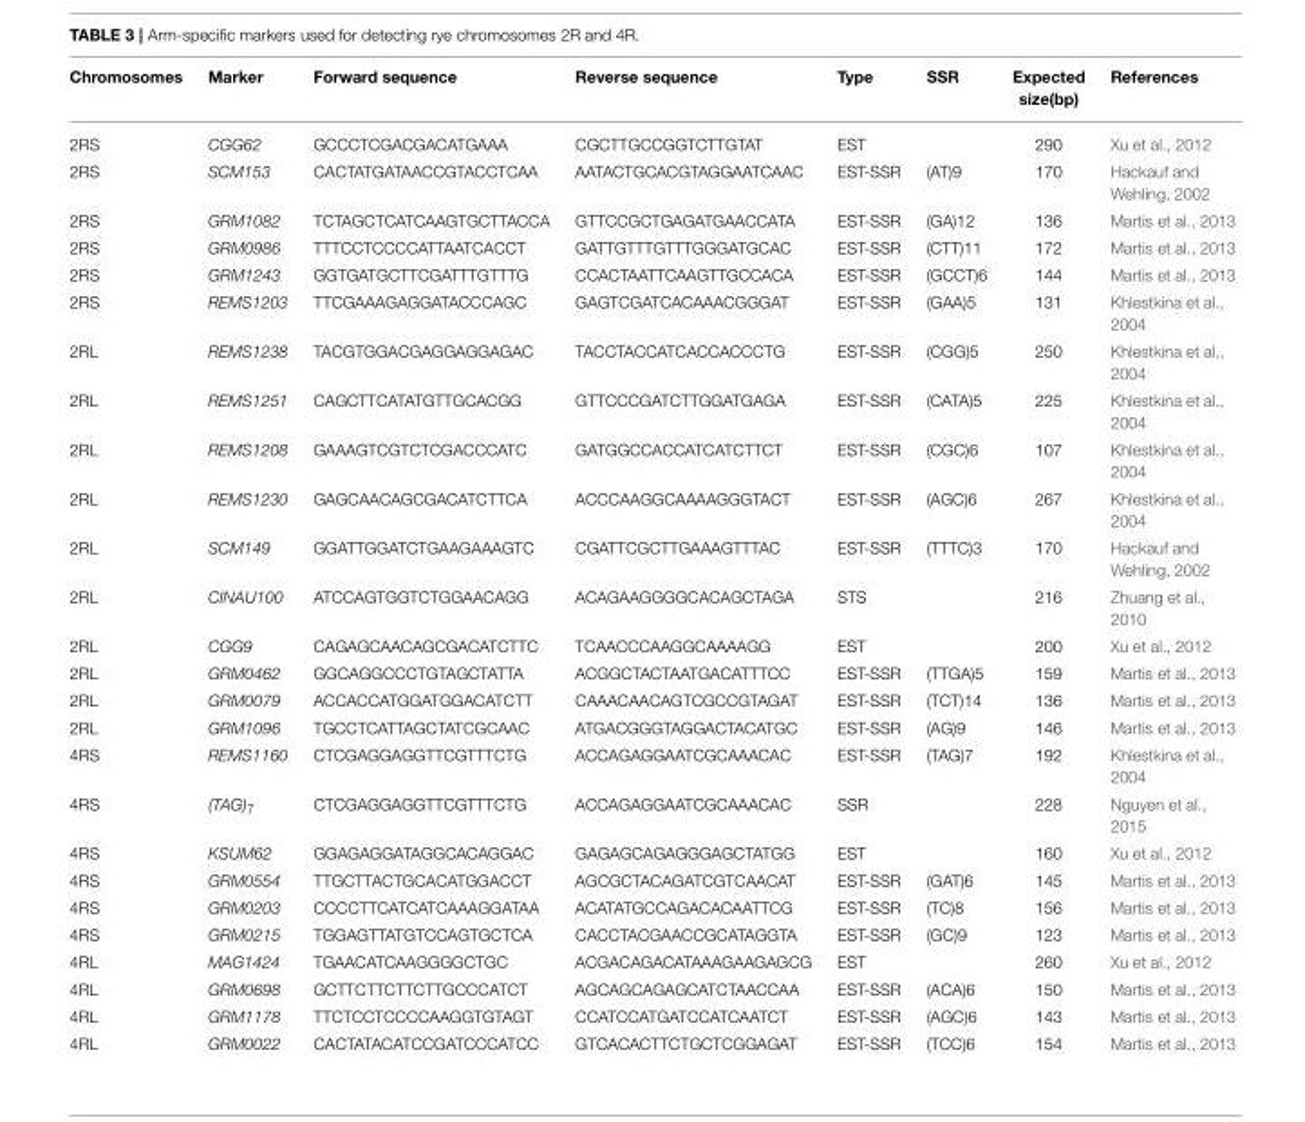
<table><thead><tr><td>Chromosomes</td><td>Marker</td><td>Forward sequence</td><td>Reverse sequence</td><td>Type</td><td>SSR</td><td>Expected size(bp)</td><td>References</td></tr></thead><tbody><tr><td>2RS</td><td>CGG62</td><td>GCCCTCGACGACATGAAA</td><td>CGCTTGCCGGTCTTGTAT</td><td>EST</td><td></td><td>290</td><td>Xu et al., 2012</td></tr><tr><td>2RS</td><td>SCM153</td><td>CACTATGATAACCGTACCTCAA</td><td>AATACTGCACGTAGGAATCAAC</td><td>EST-SSR</td><td>(AT)9</td><td>170</td><td>Hackauf and Wehling, 2002</td></tr><tr><td>2RS</td><td>GRM1082</td><td>TCTAGCTCATCAAGTGCTTACCA</td><td>GTTCCGCTGAGATGAACCATA</td><td>EST-SSR</td><td>(GA)12</td><td>136</td><td>Martis et al., 2013</td></tr><tr><td>2RS</td><td>GRM0986</td><td>TTTCCTCCCCATTAATCACCT</td><td>GATTGTTTGTTTGGGATGCAC</td><td>EST-SSR</td><td>(CTT)11</td><td>172</td><td>Martis et al., 2013</td></tr><tr><td>2RS</td><td>GRM1243</td><td>GGTGATGCTTCGATTTGTTTG</td><td>CCACTAATTCAAGTTGCCACA</td><td>EST-SSR</td><td>(GCCT)6</td><td>144</td><td>Martis et al., 2013</td></tr><tr><td>2RS</td><td>REMS1203</td><td>TTCGAAAGAGGATACCCAGC</td><td>GAGTCGATCACAAACGGGAT</td><td>EST-SSR</td><td>(GAA)5</td><td>131</td><td>Khlestkina et al., 2004</td></tr><tr><td>2RL</td><td>REMS1238</td><td>TACGTGGACGAGGAGGAGAC</td><td>TACCTACCATCACCACCCTG</td><td>EST-SSR</td><td>(CGG)5</td><td>250</td><td>Khlestkina et al., 2004</td></tr><tr><td>2RL</td><td>REMS1251</td><td>CAGCTTCATATGTTGCACGG</td><td>GTTCCCGATCTTGGATGAGA</td><td>EST-SSR</td><td>(CATA)5</td><td>225</td><td>Khlestkina et al., 2004</td></tr><tr><td>2RL</td><td>REMS1208</td><td>GAAAGTCGTCTCGACCCATC</td><td>GATGGCCACCATCATCTTCT</td><td>EST-SSR</td><td>(CGC)6</td><td>107</td><td>Khlestkina et al., 2004</td></tr><tr><td>2RL</td><td>REMS1230</td><td>GAGCAACAGCGACATCTTCA</td><td>ACCCAAGGCAAAAGGGTACT</td><td>EST-SSR</td><td>(AGC)6</td><td>267</td><td>Khlestkina et al., 2004</td></tr><tr><td>2RL</td><td>SCM149</td><td>GGATTGGATCTGAAGAAAGTC</td><td>CGATTCGCTTGAAAGTTTAC</td><td>EST-SSR</td><td>(TTTC)3</td><td>170</td><td>Hackauf and Wehling, 2002</td></tr><tr><td>2RL</td><td>CINAU100</td><td>ATCCAGTGGTCTGGAACAGG</td><td>ACAGAAGGGGCACAGCTAGA</td><td>STS</td><td></td><td>216</td><td>Zhuang et al., 2010</td></tr><tr><td>2RL</td><td>CGG9</td><td>CAGAGCAACAGCGACATCTTC</td><td>TCAACCCAAGGCAAAAGG</td><td>EST</td><td></td><td>200</td><td>Xu et al., 2012</td></tr><tr><td>2RL</td><td>GRM0462</td><td>GGCAGGCCCTGTAGCTATTA</td><td>ACGGCTACTAATGACATTTCC</td><td>EST-SSR</td><td>(TTGA)5</td><td>159</td><td>Martis et al., 2013</td></tr><tr><td>2RL</td><td>GRM0079</td><td>ACCACCATGGATGGACATCTT</td><td>CAAACAACAGTCGCCGTAGAT</td><td>EST-SSR</td><td>(TCT)14</td><td>136</td><td>Martis et al., 2013</td></tr><tr><td>2RL</td><td>GRM1096</td><td>TGCCTCATTAGCTATCGCAAC</td><td>ATGACGGGTAGGACTACATGC</td><td>EST-SSR</td><td>(AG)9</td><td>146</td><td>Martis et al., 2013</td></tr><tr><td>4RS</td><td>REMS1160</td><td>CTCGAGGAGGTTCGTTTCTG</td><td>ACCAGAGGAATCGCAAACAC</td><td>EST-SSR</td><td>(TAG)7</td><td>192</td><td>Khlestkina et al., 2004</td></tr><tr><td>4RS</td><td>(TAG)<sub>7</sub></td><td>CTCGAGGAGGTTCGTTTCTG</td><td>ACCAGAGGAATCGCAAACAC</td><td>SSR</td><td></td><td>228</td><td>Nguyen et al., 2015</td></tr><tr><td>4RS</td><td>KSUM62</td><td>GGAGAGGATAGGCACAGGAC</td><td>GAGAGCAGAGGGAGCTATGG</td><td>EST</td><td></td><td>160</td><td>Xu et al., 2012</td></tr><tr><td>4RS</td><td>GRM0554</td><td>TTGCTTACTGCACATGGACCT</td><td>AGCGCTACAGATCGTCAACAT</td><td>EST-SSR</td><td>(GAT)6</td><td>145</td><td>Martis et al., 2013</td></tr><tr><td>4RS</td><td>GRM0203</td><td>CCCCTTCATCATCAAAGGATAA</td><td>ACATATGCCAGACACAATTCG</td><td>EST-SSR</td><td>(TC)8</td><td>156</td><td>Martis et al., 2013</td></tr><tr><td>4RS</td><td>GRM0215</td><td>TGGAGTTATGTCCAGTGCTCA</td><td>CACCTACGAACCGCATAGGTA</td><td>EST-SSR</td><td>(GC)9</td><td>123</td><td>Martis et al., 2013</td></tr><tr><td>4RL</td><td>MAG1424</td><td>TGAACATCAAGGGGCTGC</td><td>ACGACAGACATAAAGAAGAGCG</td><td>EST</td><td></td><td>260</td><td>Xu et al., 2012</td></tr><tr><td>4RL</td><td>GRM0698</td><td>GCTTCTTCTTCTTGCCCATCT</td><td>AGCAGCAGAGCATCTAACCAA</td><td>EST-SSR</td><td>(ACA)6</td><td>150</td><td>Martis et al., 2013</td></tr><tr><td>4RL</td><td>GRM1178</td><td>TTCTCCTCCCCAAGGTGTAGT</td><td>CCATCCATGATCCATCAATCT</td><td>EST-SSR</td><td>(AGC)6</td><td>143</td><td>Martis et al., 2013</td></tr><tr><td>4RL</td><td>GRM0022</td><td>CACTATACATCCGATCCCATCC</td><td>GTCACACTTCTGCTCGGAGAT</td><td>EST-SSR</td><td>(TCC)6</td><td>154</td><td>Martis et al., 2013</td></tr></tbody></table>